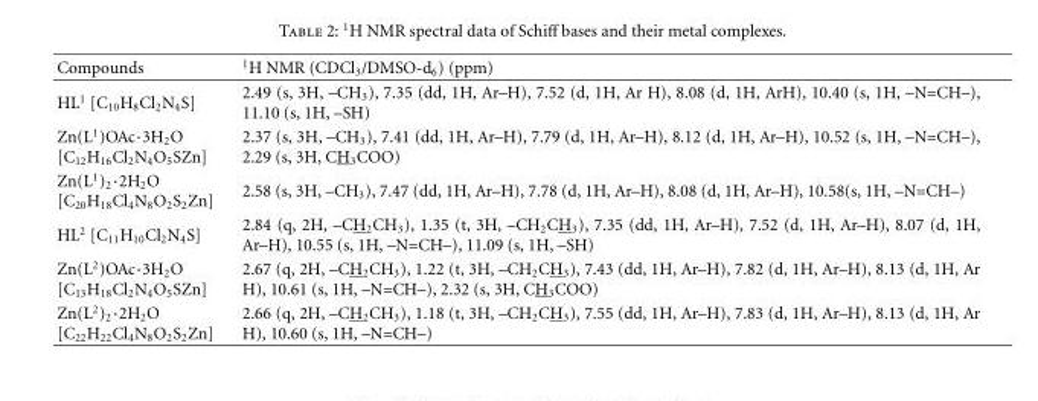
<table><thead><tr><td>Compounds</td><td><sup>1</sup>H NMR (CDCl<sub>3</sub>/DMSO-d<sub>6</sub>) (ppm)</td></tr></thead><tbody><tr><td>HL<sup>1</sup> [C<sub>10</sub>H<sub>8</sub>Cl<sub>2</sub>N<sub>4</sub>S]</td><td>2.49 (s, 3H, –CH<sub>3</sub>), 7.35 (dd, 1H, Ar–H), 7.52 (d, 1H, Ar H), 8.08 (d, 1H, ArH), 10.40 (s, 1H, –N=CH–), 11.10 (s, 1H, –SH)</td></tr><tr><td>Zn(L<sup>1</sup>)OAc·3H<sub>2</sub>O [C<sub>12</sub>H<sub>16</sub>Cl<sub>2</sub>N<sub>4</sub>O<sub>5</sub>SZn]</td><td>2.37 (s, 3H, –CH<sub>3</sub>), 7.41 (dd, 1H, Ar–H), 7.79 (d, 1H, Ar–H), 8.12 (d, 1H, Ar–H), 10.52 (s, 1H, –N=CH–), 2.29 (s, 3H, CH<sub>3</sub>COO)</td></tr><tr><td>Zn(L<sup>1</sup>)<sub>2</sub>·2H<sub>2</sub>O [C<sub>20</sub>H<sub>18</sub>Cl<sub>4</sub>N<sub>8</sub>O<sub>2</sub>S<sub>2</sub>Zn]</td><td>2.58 (s, 3H, –CH<sub>3</sub>), 7.47 (dd, 1H, Ar–H), 7.78 (d, 1H, Ar–H), 8.08 (d, 1H, Ar–H), 10.58(s, 1H, –N=CH–)</td></tr><tr><td>HL<sup>2</sup> [C<sub>11</sub>H<sub>10</sub>Cl<sub>2</sub>N<sub>4</sub>S]</td><td>2.84 (q, 2H, –CH<sub>2</sub>CH<sub>3</sub>), 1.35 (t, 3H, –CH<sub>2</sub>CH<sub>3</sub>), 7.35 (dd, 1H, Ar–H), 7.52 (d, 1H, Ar–H), 8.07 (d, 1H, Ar–H), 10.55 (s, 1H, –N=CH–), 11.09 (s, 1H, –SH)</td></tr><tr><td>Zn(L<sup>2</sup>)OAc·3H<sub>2</sub>O [C<sub>13</sub>H<sub>18</sub>Cl<sub>2</sub>N<sub>4</sub>O<sub>5</sub>SZn]</td><td>2.67 (q, 2H, –CH<sub>2</sub>CH<sub>3</sub>), 1.22 (t, 3H, –CH<sub>2</sub>CH<sub>3</sub>), 7.43 (dd, 1H, Ar–H), 7.82 (d, 1H, Ar–H), 8.13 (d, 1H, Ar H), 10.61 (s, 1H, –N=CH–), 2.32 (s, 3H, CH<sub>3</sub>COO)</td></tr><tr><td>Zn(L<sup>2</sup>)<sub>2</sub>·2H<sub>2</sub>O [C<sub>22</sub>H<sub>22</sub>Cl<sub>4</sub>N<sub>8</sub>O<sub>2</sub>S<sub>2</sub>Zn]</td><td>2.66 (q, 2H, –CH<sub>2</sub>CH<sub>3</sub>), 1.18 (t, 3H, –CH<sub>2</sub>CH<sub>3</sub>), 7.55 (dd, 1H, Ar–H), 7.83 (d, 1H, Ar–H), 8.13 (d, 1H, Ar H), 10.60 (s, 1H, –N=CH–)</td></tr></tbody></table>